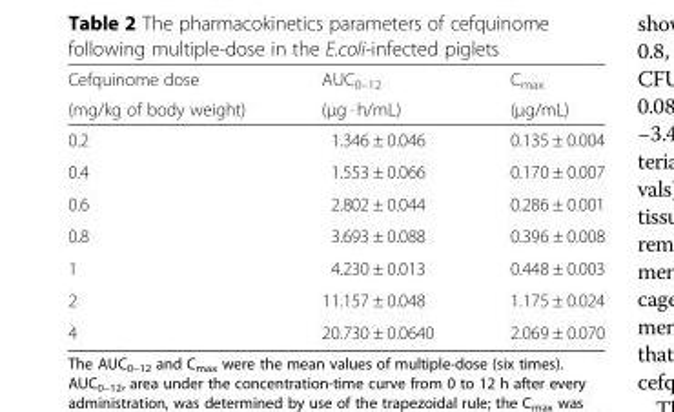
<table><thead><tr><td rowspan="2">Cefquinome dose (mg/kg of body weight)</td><td rowspan="2">AUC<sub>0–12</sub> (μg · h/mL)</td><td rowspan="2">C<sub>max</sub> (μg/mL)</td></tr><tr></tr></thead><tbody><tr><td>0.2</td><td>1.346 ± 0.046</td><td>0.135 ± 0.004</td></tr><tr><td>0.4</td><td>1.553 ± 0.066</td><td>0.170 ± 0.007</td></tr><tr><td>0.6</td><td>2.802 ± 0.044</td><td>0.286 ± 0.001</td></tr><tr><td>0.8</td><td>3.693 ± 0.088</td><td>0.396 ± 0.008</td></tr><tr><td>1</td><td>4.230 ± 0.013</td><td>0.448 ± 0.003</td></tr><tr><td>2</td><td>11.157 ± 0.048</td><td>1.175 ± 0.024</td></tr><tr><td>4</td><td>20.730 ± 0.0640</td><td>2.069 ± 0.070</td></tr></tbody></table>